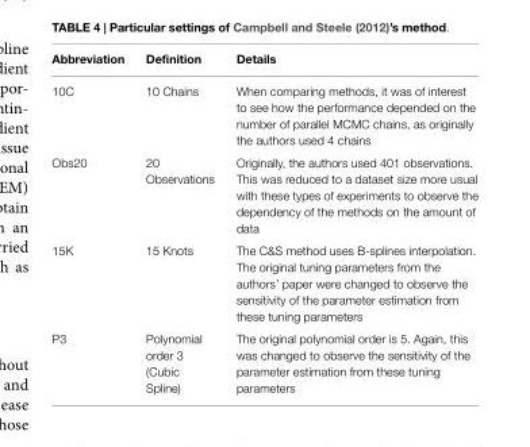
<table><thead><tr><td>Abbreviation</td><td>Definition</td><td>Details</td></tr></thead><tbody><tr><td>10C</td><td>10 Chains</td><td>When comparing methods, it was of interest to see how the performance depended on the number of parallel MCMC chains, as originally the authors used 4 chains</td></tr><tr><td>Obs20</td><td>20 Observations</td><td>Originally, the authors used 401 observations. This was reduced to a dataset size more usual with these types of experiments to observe the dependency of the methods on the amount of data</td></tr><tr><td>15K</td><td>15 Knots</td><td>The C&amp;S method uses B-splines interpolation. The original tuning parameters from the authors’ paper were changed to observe the sensitivity of the parameter estimation from these tuning parameters</td></tr><tr><td>P3</td><td>Polynomial order 3 (Cubic Spline)</td><td>The original polynomial order is 5. Again, this was changed to observe the sensitivity of the parameter estimation from these tuning parameters</td></tr></tbody></table>